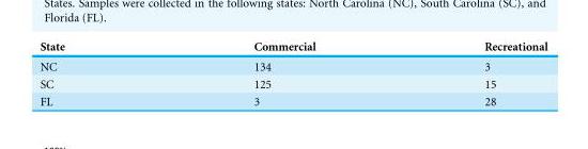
<table><thead><tr><td>State</td><td>Commercial</td><td>Recreational</td></tr></thead><tbody><tr><td>NC</td><td>134</td><td>3</td></tr><tr><td>SC</td><td>125</td><td>15</td></tr><tr><td>FL</td><td>3</td><td>28</td></tr></tbody></table>